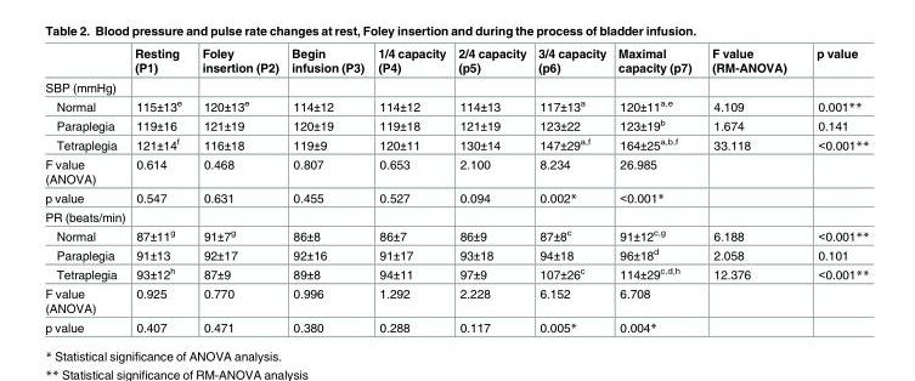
<table><thead><tr><td></td><td>Resting (P1)</td><td>Foley insertion (P2)</td><td>Begin infusion (P3)</td><td>1/4 capacity (P4)</td><td>2/4 capacity (p5)</td><td>3/4 capacity (p6)</td><td>Maximal capacity (p7)</td><td>F value (RM-ANOVA)</td><td>p value</td></tr></thead><tbody><tr><td colspan="10">SBP (mmHg)</td></tr><tr><td>Normal</td><td>115±13<sup>e</sup></td><td>120±13<sup>e</sup></td><td>114±12</td><td>114±12</td><td>114±13</td><td>117±13<sup>a</sup></td><td>120±11<sup>a,e</sup></td><td>4.109</td><td>0.001**</td></tr><tr><td>Paraplegia</td><td>119±16</td><td>121±19</td><td>120±19</td><td>119±18</td><td>121±19</td><td>123±22</td><td>123±19<sup>b</sup></td><td>1.674</td><td>0.141</td></tr><tr><td>Tetraplegia</td><td>121±14<sup>f</sup></td><td>116±18</td><td>119±9</td><td>120±11</td><td>130±14</td><td>147±29<sup>a,f</sup></td><td>164±25<sup>a,b,f</sup></td><td>33.118</td><td>&lt;0.001**</td></tr><tr><td>F value (ANOVA)</td><td>0.614</td><td>0.468</td><td>0.807</td><td>0.653</td><td>2.100</td><td>8.234</td><td>26.985</td><td></td><td></td></tr><tr><td>p value</td><td>0.547</td><td>0.631</td><td>0.455</td><td>0.527</td><td>0.094</td><td>0.002*</td><td>&lt;0.001*</td><td></td><td></td></tr><tr><td colspan="10">PR (beats/min)</td></tr><tr><td>Normal</td><td>87±11<sup>g</sup></td><td>91±7<sup>g</sup></td><td>86±8</td><td>86±7</td><td>86±9</td><td>87±8<sup>c</sup></td><td>91±12<sup>c,g</sup></td><td>6.188</td><td>&lt;0.001**</td></tr><tr><td>Paraplegia</td><td>91±13</td><td>92±17</td><td>92±16</td><td>91±17</td><td>93±18</td><td>94±18</td><td>96±18<sup>d</sup></td><td>2.058</td><td>0.101</td></tr><tr><td>Tetraplegia</td><td>93±12<sup>h</sup></td><td>87±9</td><td>89±8</td><td>94±11</td><td>97±9</td><td>107±26<sup>c</sup></td><td>114±29<sup>c,d,h</sup></td><td>12.376</td><td>&lt;0.001**</td></tr><tr><td>F value (ANOVA)</td><td>0.925</td><td>0.770</td><td>0.996</td><td>1.292</td><td>2.228</td><td>6.152</td><td>6.708</td><td></td><td></td></tr><tr><td>p value</td><td>0.407</td><td>0.471</td><td>0.380</td><td>0.288</td><td>0.117</td><td>0.005*</td><td>0.004*</td><td></td><td></td></tr></tbody></table>